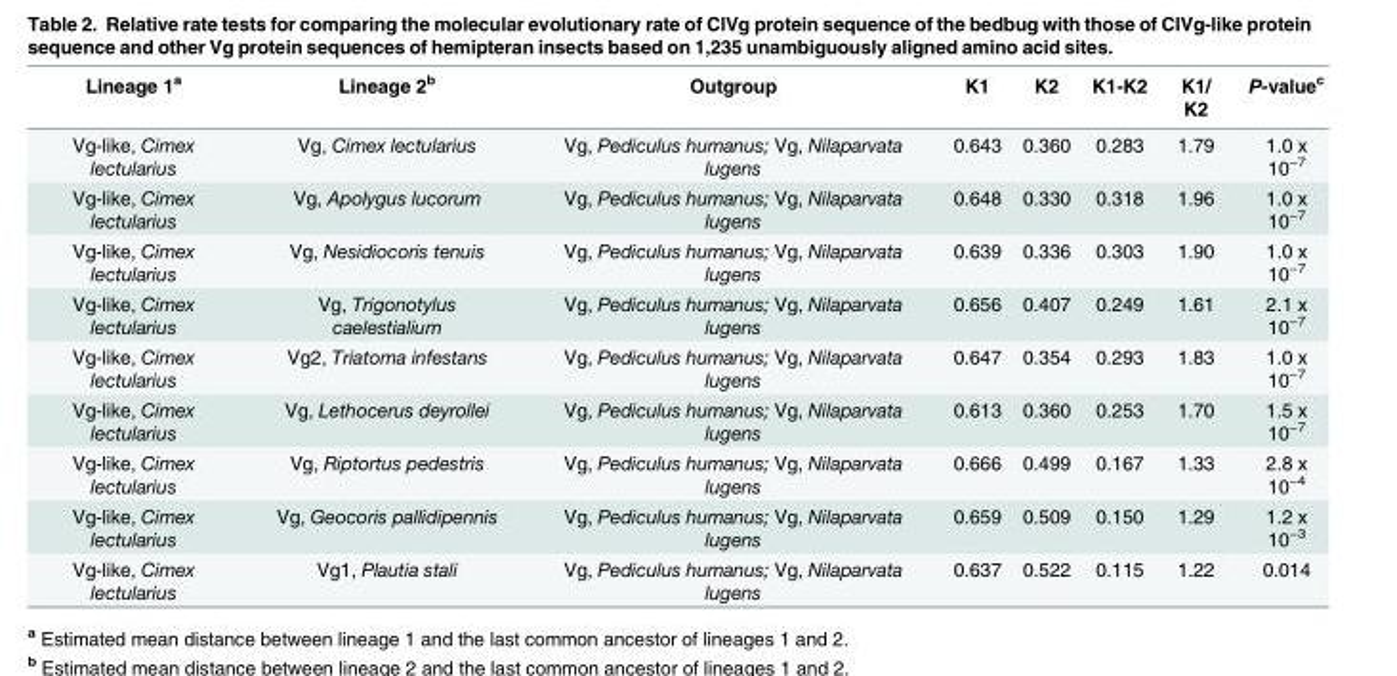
<table><thead><tr><td>Lineage 1<sup>a</sup></td><td>Lineage 2<sup>b</sup></td><td>Outgroup</td><td>K1</td><td>K2</td><td>K1-K2</td><td>K1/ K2</td><td>P-value<sup>c</sup></td></tr></thead><tbody><tr><td>Vg-like, Cimex lectularius</td><td>Vg, Cimex lectularius</td><td>Vg, Pediculus humanus; Vg, Nilaparvata lugens</td><td>0.643</td><td>0.360</td><td>0.283</td><td>1.79</td><td>1.0 x 10<sup>−7</sup></td></tr><tr><td>Vg-like, Cimex lectularius</td><td>Vg, Apolygus lucorum</td><td>Vg, Pediculus humanus; Vg, Nilaparvata lugens</td><td>0.648</td><td>0.330</td><td>0.318</td><td>1.96</td><td>1.0 x 10<sup>−7</sup></td></tr><tr><td>Vg-like, Cimex lectularius</td><td>Vg, Nesidiocoris tenuis</td><td>Vg, Pediculus humanus; Vg, Nilaparvata lugens</td><td>0.639</td><td>0.336</td><td>0.303</td><td>1.90</td><td>1.0 x 10<sup>−7</sup></td></tr><tr><td>Vg-like, Cimex lectularius</td><td>Vg, Trigonotylus caelestialium</td><td>Vg, Pediculus humanus; Vg, Nilaparvata lugens</td><td>0.656</td><td>0.407</td><td>0.249</td><td>1.61</td><td>2.1 x 10<sup>−7</sup></td></tr><tr><td>Vg-like, Cimex lectularius</td><td>Vg2, Triatoma infestans</td><td>Vg, Pediculus humanus; Vg, Nilaparvata lugens</td><td>0.647</td><td>0.354</td><td>0.293</td><td>1.83</td><td>1.0 x 10<sup>−7</sup></td></tr><tr><td>Vg-like, Cimex lectularius</td><td>Vg, Lethocerus deyrollei</td><td>Vg, Pediculus humanus; Vg, Nilaparvata lugens</td><td>0.613</td><td>0.360</td><td>0.253</td><td>1.70</td><td>1.5 x 10<sup>−7</sup></td></tr><tr><td>Vg-like, Cimex lectularius</td><td>Vg, Riptortus pedestris</td><td>Vg, Pediculus humanus; Vg, Nilaparvata lugens</td><td>0.666</td><td>0.499</td><td>0.167</td><td>1.33</td><td>2.8 x 10<sup>−4</sup></td></tr><tr><td>Vg-like, Cimex lectularius</td><td>Vg, Geocoris pallidipennis</td><td>Vg, Pediculus humanus; Vg, Nilaparvata lugens</td><td>0.659</td><td>0.509</td><td>0.150</td><td>1.29</td><td>1.2 x 10<sup>−3</sup></td></tr><tr><td>Vg-like, Cimex lectularius</td><td>Vg1, Plautia stali</td><td>Vg, Pediculus humanus; Vg, Nilaparvata lugens</td><td>0.637</td><td>0.522</td><td>0.115</td><td>1.22</td><td>0.014</td></tr></tbody></table>